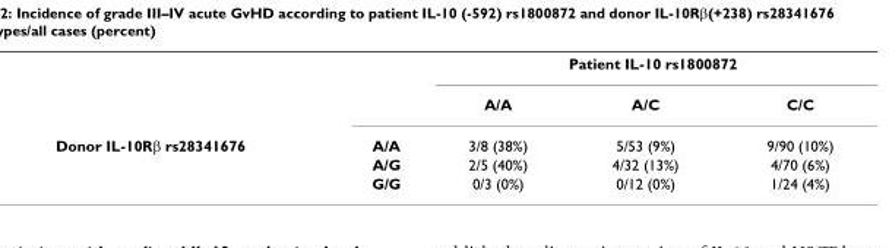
<table><thead><tr><td rowspan="2"></td><td rowspan="2"></td><td colspan="3">Patient IL-10 rs1800872</td></tr><tr><td>A/A</td><td>A/C</td><td>C/C</td></tr></thead><tbody><tr><td rowspan="3">Donor IL-10Rβ rs28341676</td><td>A/A</td><td>3/8 (38%)</td><td>5/53 (9%)</td><td>9/90 (10%)</td></tr><tr><td>A/G</td><td>2/5 (40%)</td><td>4/32 (13%)</td><td>4/70 (6%)</td></tr><tr><td>G/G</td><td>0/3 (0%)</td><td>0/12 (0%)</td><td>1/24 (4%)</td></tr></tbody></table>